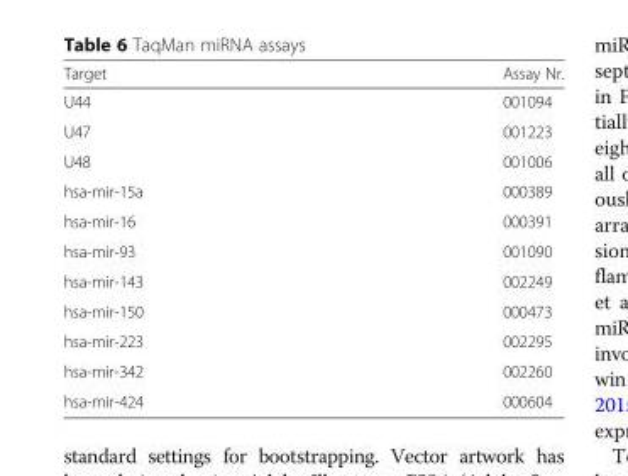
<table><thead><tr><td>Target</td><td>Assay Nr.</td></tr></thead><tbody><tr><td>U44</td><td>001094</td></tr><tr><td>U47</td><td>001223</td></tr><tr><td>U48</td><td>001006</td></tr><tr><td>hsa-mir-15a</td><td>000389</td></tr><tr><td>hsa-mir-16</td><td>000391</td></tr><tr><td>hsa-mir-93</td><td>001090</td></tr><tr><td>hsa-mir-143</td><td>002249</td></tr><tr><td>hsa-mir-150</td><td>000473</td></tr><tr><td>hsa-mir-223</td><td>002295</td></tr><tr><td>hsa-mir-342</td><td>002260</td></tr><tr><td>hsa-mir-424</td><td>000604</td></tr></tbody></table>